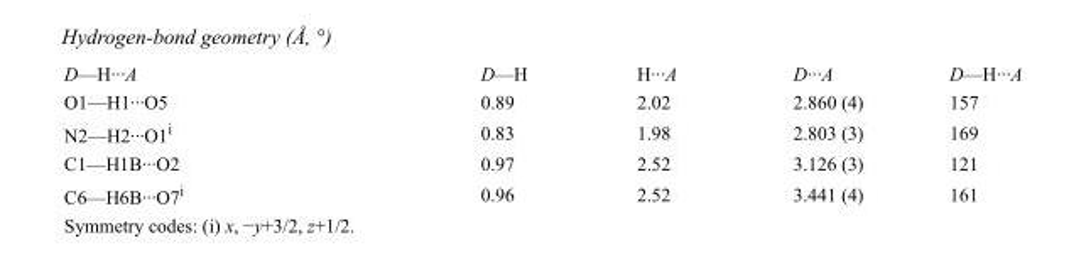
<table><tbody><tr><td>D—H···A</td><td>D—H</td><td>H···A</td><td>D···A</td><td>D—H···A</td></tr><tr><td>O1—H1···O5</td><td>0.89</td><td>2.02</td><td>2.860 (4)</td><td>157</td></tr><tr><td>N2—H2···O1<sup>i</sup></td><td>0.83</td><td>1.98</td><td>2.803 (3)</td><td>169</td></tr><tr><td>C1—H1B···O2</td><td>0.97</td><td>2.52</td><td>3.126 (3)</td><td>121</td></tr><tr><td>C6—H6B···O7<sup>i</sup></td><td>0.96</td><td>2.52</td><td>3.441 (4)</td><td>161</td></tr></tbody></table>